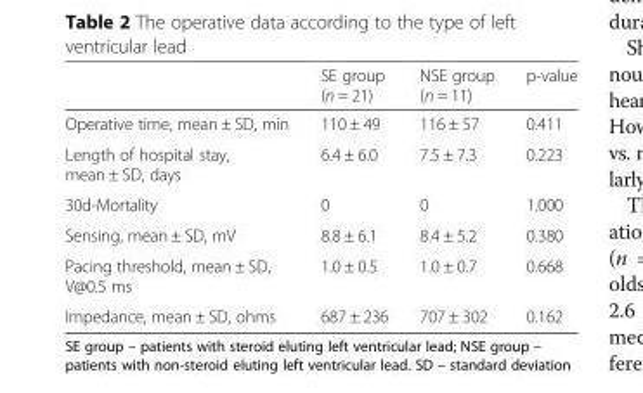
<table><thead><tr><td></td><td>SE group (n = 21)</td><td>NSE group (n = 11)</td><td>p-value</td></tr></thead><tbody><tr><td>Operative time, mean ± SD, min</td><td>110 ± 49</td><td>116 ± 57</td><td>0.411</td></tr><tr><td>Length of hospital stay, mean ± SD, days</td><td>6.4 ± 6.0</td><td>7.5 ± 7.3</td><td>0.223</td></tr><tr><td>30d-Mortality</td><td>0</td><td>0</td><td>1.000</td></tr><tr><td>Sensing, mean ± SD, mV</td><td>8.8 ± 6.1</td><td>8.4 ± 5.2</td><td>0.380</td></tr><tr><td>Pacing threshold, mean ± SD, V@0.5 ms</td><td>1.0 ± 0.5</td><td>1.0 ± 0.7</td><td>0.668</td></tr><tr><td>Impedance, mean ± SD, ohms</td><td>687 ± 236</td><td>707 ± 302</td><td>0.162</td></tr></tbody></table>